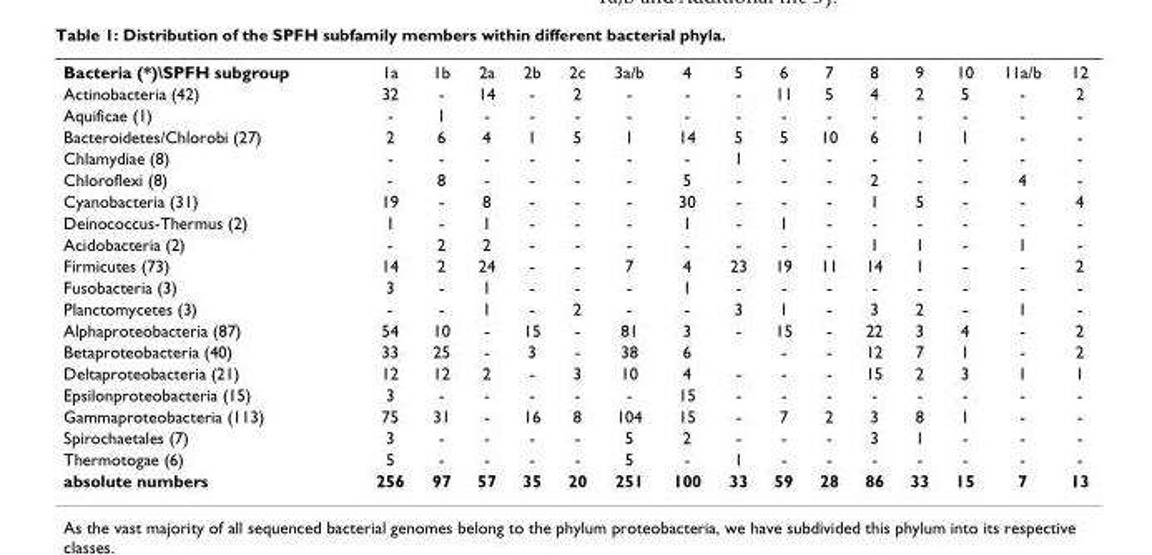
<table><tbody><tr><td>Bacteria (*)\SPFH subgroup</td><td>1a</td><td>1b</td><td>2a</td><td>2b</td><td>2c</td><td>3a/b</td><td>4</td><td>5</td><td>6</td><td>7</td><td>8</td><td>9</td><td>10</td><td>11a/b</td><td>12</td></tr><tr><td>Actinobacteria (42)</td><td>32</td><td>-</td><td>14</td><td>-</td><td>2</td><td>-</td><td>-</td><td>-</td><td>11</td><td>5</td><td>4</td><td>2</td><td>5</td><td>-</td><td>2</td></tr><tr><td>Aquificae (1)</td><td>-</td><td>1</td><td>-</td><td>-</td><td>-</td><td>-</td><td>-</td><td>-</td><td>-</td><td>-</td><td>-</td><td>-</td><td>-</td><td>-</td><td>-</td></tr><tr><td>Bacteroidetes/Chlorobi (27)</td><td>2</td><td>6</td><td>4</td><td>1</td><td>5</td><td>1</td><td>14</td><td>5</td><td>5</td><td>10</td><td>6</td><td>1</td><td>1</td><td>-</td><td>-</td></tr><tr><td>Chlamydiae (8)</td><td>-</td><td>-</td><td>-</td><td>-</td><td>-</td><td>-</td><td>-</td><td>1</td><td>-</td><td>-</td><td>-</td><td>-</td><td>-</td><td>-</td><td>-</td></tr><tr><td>Chloroflexi (8)</td><td>-</td><td>8</td><td>-</td><td>-</td><td>-</td><td>-</td><td>5</td><td>-</td><td>-</td><td>-</td><td>2</td><td>-</td><td>-</td><td>4</td><td>-</td></tr><tr><td>Cyanobacteria (31)</td><td>19</td><td>-</td><td>8</td><td>-</td><td>-</td><td>-</td><td>30</td><td>-</td><td>-</td><td>-</td><td>1</td><td>5</td><td>-</td><td>-</td><td>4</td></tr><tr><td>Deinococcus-Thermus (2)</td><td>1</td><td>-</td><td>1</td><td>-</td><td>-</td><td>-</td><td>1</td><td>-</td><td>1</td><td>-</td><td>-</td><td>-</td><td>-</td><td>-</td><td>-</td></tr><tr><td>Acidobacteria (2)</td><td>-</td><td>2</td><td>2</td><td>-</td><td>-</td><td>-</td><td>-</td><td>-</td><td>-</td><td>-</td><td>1</td><td>1</td><td>-</td><td>1</td><td>-</td></tr><tr><td>Firmicutes (73)</td><td>14</td><td>2</td><td>24</td><td>-</td><td>-</td><td>7</td><td>4</td><td>23</td><td>19</td><td>11</td><td>14</td><td>1</td><td>-</td><td>-</td><td>2</td></tr><tr><td>Fusobacteria (3)</td><td>3</td><td>-</td><td>1</td><td>-</td><td>-</td><td>-</td><td>1</td><td>-</td><td>-</td><td>-</td><td>-</td><td>-</td><td>-</td><td>-</td><td>-</td></tr><tr><td>Planctomycetes (3)</td><td>-</td><td>-</td><td>1</td><td>-</td><td>2</td><td>-</td><td>-</td><td>3</td><td>1</td><td>-</td><td>3</td><td>2</td><td>-</td><td>1</td><td>-</td></tr><tr><td>Alphaproteobacteria (87)</td><td>54</td><td>10</td><td>-</td><td>15</td><td>-</td><td>81</td><td>3</td><td>-</td><td>15</td><td>-</td><td>22</td><td>3</td><td>4</td><td>-</td><td>2</td></tr><tr><td>Betaproteobacteria (40)</td><td>33</td><td>25</td><td>-</td><td>3</td><td>-</td><td>38</td><td>6</td><td></td><td>-</td><td>-</td><td>12</td><td>7</td><td>1</td><td>-</td><td>2</td></tr><tr><td>Deltaproteobacteria (21)</td><td>12</td><td>12</td><td>2</td><td>-</td><td>3</td><td>10</td><td>4</td><td>-</td><td>-</td><td>-</td><td>15</td><td>2</td><td>3</td><td>1</td><td>1</td></tr><tr><td>Epsilonproteobacteria (15)</td><td>3</td><td>-</td><td>-</td><td>-</td><td>-</td><td>-</td><td>15</td><td>-</td><td>-</td><td>-</td><td>-</td><td>-</td><td>-</td><td>-</td><td>-</td></tr><tr><td>Gammaproteobacteria (113)</td><td>75</td><td>31</td><td>-</td><td>16</td><td>8</td><td>104</td><td>15</td><td>-</td><td>7</td><td>2</td><td>3</td><td>8</td><td>1</td><td>-</td><td>-</td></tr><tr><td>Spirochaetales (7)</td><td>3</td><td>-</td><td>-</td><td>-</td><td>-</td><td>5</td><td>2</td><td>-</td><td>-</td><td>-</td><td>3</td><td>1</td><td>-</td><td>-</td><td>-</td></tr><tr><td>Thermotogae (6)</td><td>5</td><td>-</td><td>-</td><td>-</td><td>-</td><td>5</td><td>-</td><td>1</td><td>-</td><td>-</td><td>-</td><td>-</td><td>-</td><td>-</td><td>-</td></tr><tr><td>absolute numbers</td><td>256</td><td>97</td><td>57</td><td>35</td><td>20</td><td>251</td><td>100</td><td>33</td><td>59</td><td>28</td><td>86</td><td>33</td><td>15</td><td>7</td><td>13</td></tr></tbody></table>